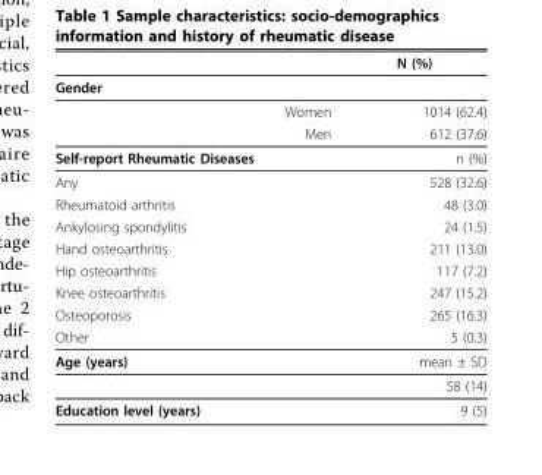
<table><thead><tr><td></td><td>N (%)</td></tr></thead><tbody><tr><td colspan="2">Gender</td></tr><tr><td>Women</td><td>1014 (62.4)</td></tr><tr><td>Men</td><td>612 (37.6)</td></tr><tr><td>Self-report Rheumatic Diseases</td><td>n (%)</td></tr><tr><td>Any</td><td>528 (32.6)</td></tr><tr><td>Rheumatoid arthritis</td><td>48 (3.0)</td></tr><tr><td>Ankylosing spondylitis</td><td>24 (1.5)</td></tr><tr><td>Hand osteoarthritis</td><td>211 (13.0)</td></tr><tr><td>Hip osteoarthritis</td><td>117 (7.2)</td></tr><tr><td>Knee osteoarthritis</td><td>247 (15.2)</td></tr><tr><td>Osteoporosis</td><td>265 (16.3)</td></tr><tr><td>Other</td><td>5 (0.3)</td></tr><tr><td rowspan="2">Age (years)</td><td>mean ± SD</td></tr><tr><td>58 (14)</td></tr><tr><td>Education level (years)</td><td>9 (5)</td></tr></tbody></table>